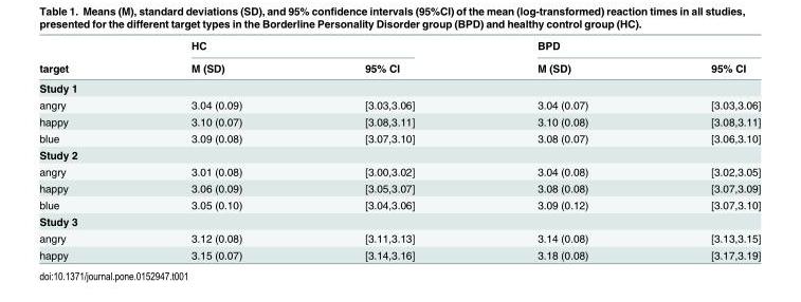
<table><thead><tr><td rowspan="2">target</td><td colspan="2">HC</td><td colspan="2">BPD</td></tr><tr><td>M (SD)</td><td>95% CI</td><td>M (SD)</td><td>95% CI</td></tr></thead><tbody><tr><td colspan="5">Study 1</td></tr><tr><td>angry</td><td>3.04 (0.09)</td><td>[3.03,3.06]</td><td>3.04 (0.07)</td><td>[3.03,3.06]</td></tr><tr><td>happy</td><td>3.10 (0.07)</td><td>[3.08,3.11]</td><td>3.10 (0.08)</td><td>[3.08,3.11]</td></tr><tr><td>blue</td><td>3.09 (0.08)</td><td>[3.07,3.10]</td><td>3.08 (0.07)</td><td>[3.06,3.10]</td></tr><tr><td colspan="5">Study 2</td></tr><tr><td>angry</td><td>3.01 (0.08)</td><td>[3.00,3.02]</td><td>3.04 (0.08)</td><td>[3.02,3.05]</td></tr><tr><td>happy</td><td>3.06 (0.09)</td><td>[3.05,3.07]</td><td>3.08 (0.08)</td><td>[3.07,3.09]</td></tr><tr><td>blue</td><td>3.05 (0.10)</td><td>[3.04,3.06]</td><td>3.09 (0.12)</td><td>[3.07,3.10]</td></tr><tr><td colspan="5">Study 3</td></tr><tr><td>angry</td><td>3.12 (0.08)</td><td>[3.11,3.13]</td><td>3.14 (0.08)</td><td>[3.13,3.15]</td></tr><tr><td>happy</td><td>3.15 (0.07)</td><td>[3.14,3.16]</td><td>3.18 (0.08)</td><td>[3.17,3.19]</td></tr></tbody></table>